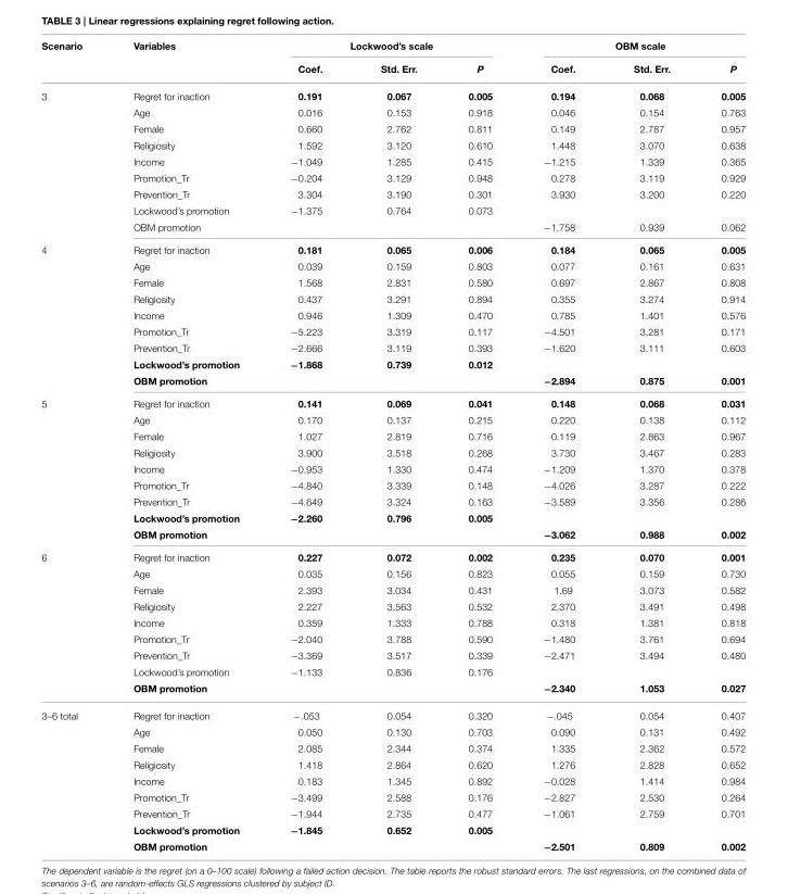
<table><thead><tr><td rowspan="2">Scenario</td><td rowspan="2">Variables</td><td colspan="3">Lockwood’s scale</td><td colspan="3">OBM scale</td></tr><tr><td>Coef.</td><td>Std. Err.</td><td>P</td><td>Coef.</td><td>Std. Err.</td><td>P</td></tr></thead><tbody><tr><td rowspan="9">3</td><td>Regret for inaction</td><td>0.191</td><td>0.067</td><td>0.005</td><td>0.194</td><td>0.068</td><td>0.005</td></tr><tr><td>Age</td><td>0.016</td><td>0.153</td><td>0.918</td><td>0.046</td><td>0.154</td><td>0.763</td></tr><tr><td>Female</td><td>0.660</td><td>2.762</td><td>0.811</td><td>0.149</td><td>2.787</td><td>0.957</td></tr><tr><td>Religiosity</td><td>1.592</td><td>3.120</td><td>0.610</td><td>1.448</td><td>3.070</td><td>0.638</td></tr><tr><td>Income</td><td>−1.049</td><td>1.285</td><td>0.415</td><td>−1.215</td><td>1.339</td><td>0.365</td></tr><tr><td>Promotion_Tr</td><td>−0.204</td><td>3.129</td><td>0.948</td><td>0.278</td><td>3.119</td><td>0.929</td></tr><tr><td>Prevention_Tr</td><td>3.304</td><td>3.190</td><td>0.301</td><td>3.930</td><td>3.200</td><td>0.220</td></tr><tr><td>Lockwood’s promotion</td><td>−1.375</td><td>0.764</td><td>0.073</td><td></td><td></td><td></td></tr><tr><td>OBM promotion</td><td></td><td></td><td></td><td>−1.758</td><td>0.939</td><td>0.062</td></tr><tr><td rowspan="9">4</td><td>Regret for inaction</td><td>0.181</td><td>0.065</td><td>0.006</td><td>0.184</td><td>0.065</td><td>0.005</td></tr><tr><td>Age</td><td>0.039</td><td>0.159</td><td>0.803</td><td>0.077</td><td>0.161</td><td>0.631</td></tr><tr><td>Female</td><td>1.568</td><td>2.831</td><td>0.580</td><td>0.697</td><td>2.867</td><td>0.808</td></tr><tr><td>Religiosity</td><td>0.437</td><td>3.291</td><td>0.894</td><td>0.355</td><td>3.274</td><td>0.914</td></tr><tr><td>Income</td><td>0.946</td><td>1.309</td><td>0.470</td><td>0.785</td><td>1.401</td><td>0.576</td></tr><tr><td>Promotion_Tr</td><td>−5.223</td><td>3.319</td><td>0.117</td><td>−4.501</td><td>3.281</td><td>0.171</td></tr><tr><td>Prevention_Tr</td><td>−2.666</td><td>3.119</td><td>0.393</td><td>−1.620</td><td>3.111</td><td>0.603</td></tr><tr><td>Lockwood’s promotion</td><td>−1.868</td><td>0.739</td><td>0.012</td><td></td><td></td><td></td></tr><tr><td>OBM promotion</td><td></td><td></td><td></td><td>−2.894</td><td>0.875</td><td>0.001</td></tr><tr><td rowspan="9">5</td><td>Regret for inaction</td><td>0.141</td><td>0.069</td><td>0.041</td><td>0.148</td><td>0.068</td><td>0.031</td></tr><tr><td>Age</td><td>0.170</td><td>0.137</td><td>0.215</td><td>0.220</td><td>0.138</td><td>0.112</td></tr><tr><td>Female</td><td>1.027</td><td>2.819</td><td>0.716</td><td>0.119</td><td>2.863</td><td>0.967</td></tr><tr><td>Religiosity</td><td>3.900</td><td>3.518</td><td>0.268</td><td>3.730</td><td>3.467</td><td>0.283</td></tr><tr><td>Income</td><td>−0.953</td><td>1.330</td><td>0.474</td><td>−1.209</td><td>1.370</td><td>0.378</td></tr><tr><td>Promotion_Tr</td><td>−4.840</td><td>3.339</td><td>0.148</td><td>−4.026</td><td>3.287</td><td>0.222</td></tr><tr><td>Prevention_Tr</td><td>−4.649</td><td>3.324</td><td>0.163</td><td>−3.589</td><td>3.356</td><td>0.286</td></tr><tr><td>Lockwood’s promotion</td><td>−2.260</td><td>0.796</td><td>0.005</td><td></td><td></td><td></td></tr><tr><td>OBM promotion</td><td></td><td></td><td></td><td>−3.062</td><td>0.988</td><td>0.002</td></tr><tr><td rowspan="9">6</td><td>Regret for inaction</td><td>0.227</td><td>0.072</td><td>0.002</td><td>0.235</td><td>0.070</td><td>0.001</td></tr><tr><td>Age</td><td>0.035</td><td>0.156</td><td>0.823</td><td>0.055</td><td>0.159</td><td>0.730</td></tr><tr><td>Female</td><td>2.393</td><td>3.034</td><td>0.431</td><td>1.69</td><td>3.073</td><td>0.582</td></tr><tr><td>Religiosity</td><td>2.227</td><td>3.563</td><td>0.532</td><td>2.370</td><td>3.491</td><td>0.498</td></tr><tr><td>Income</td><td>0.359</td><td>1.333</td><td>0.788</td><td>0.318</td><td>1.381</td><td>0.818</td></tr><tr><td>Promotion_Tr</td><td>−2.040</td><td>3.788</td><td>0.590</td><td>−1.480</td><td>3.761</td><td>0.694</td></tr><tr><td>Prevention_Tr</td><td>−3.369</td><td>3.517</td><td>0.339</td><td>−2.471</td><td>3.494</td><td>0.480</td></tr><tr><td>Lockwood’s promotion</td><td>−1.133</td><td>0.836</td><td>0.176</td><td></td><td></td><td></td></tr><tr><td>OBM promotion</td><td></td><td></td><td></td><td>−2.340</td><td>1.053</td><td>0.027</td></tr><tr><td rowspan="9">3–6 total</td><td>Regret for inaction</td><td>−.053</td><td>0.054</td><td>0.320</td><td>−.045</td><td>0.054</td><td>0.407</td></tr><tr><td>Age</td><td>0.050</td><td>0.130</td><td>0.703</td><td>0.090</td><td>0.131</td><td>0.492</td></tr><tr><td>Female</td><td>2.085</td><td>2.344</td><td>0.374</td><td>1.335</td><td>2.362</td><td>0.572</td></tr><tr><td>Religiosity</td><td>1.418</td><td>2.864</td><td>0.620</td><td>1.276</td><td>2.828</td><td>0.652</td></tr><tr><td>Income</td><td>0.183</td><td>1.345</td><td>0.892</td><td>−0.028</td><td>1.414</td><td>0.984</td></tr><tr><td>Promotion_Tr</td><td>−3.499</td><td>2.588</td><td>0.176</td><td>−2.827</td><td>2.530</td><td>0.264</td></tr><tr><td>Prevention_Tr</td><td>−1.944</td><td>2.735</td><td>0.477</td><td>−1.061</td><td>2.759</td><td>0.701</td></tr><tr><td>Lockwood’s promotion</td><td>−1.845</td><td>0.652</td><td>0.005</td><td></td><td></td><td></td></tr><tr><td>OBM promotion</td><td></td><td></td><td></td><td>−2.501</td><td>0.809</td><td>0.002</td></tr></tbody></table>